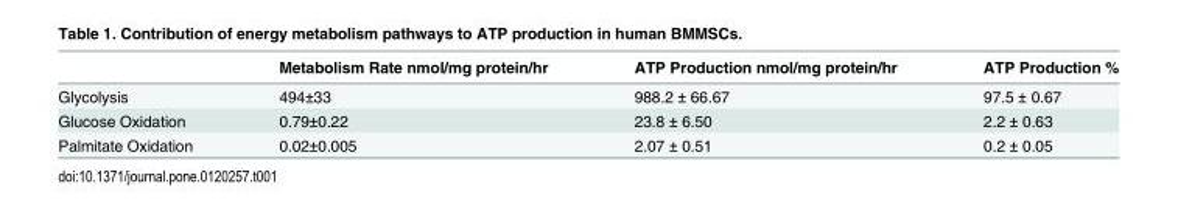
<table><thead><tr><td></td><td>Metabolism Rate nmol/mg protein/hr</td><td>ATP Production nmol/mg protein/hr</td><td>ATP Production %</td></tr></thead><tbody><tr><td>Glycolysis</td><td>494±33</td><td>988.2 ± 66.67</td><td>97.5 ± 0.67</td></tr><tr><td>Glucose Oxidation</td><td>0.79±0.22</td><td>23.8 ± 6.50</td><td>2.2 ± 0.63</td></tr><tr><td>Palmitate Oxidation</td><td>0.02±0.005</td><td>2.07 ± 0.51</td><td>0.2 ± 0.05</td></tr></tbody></table>